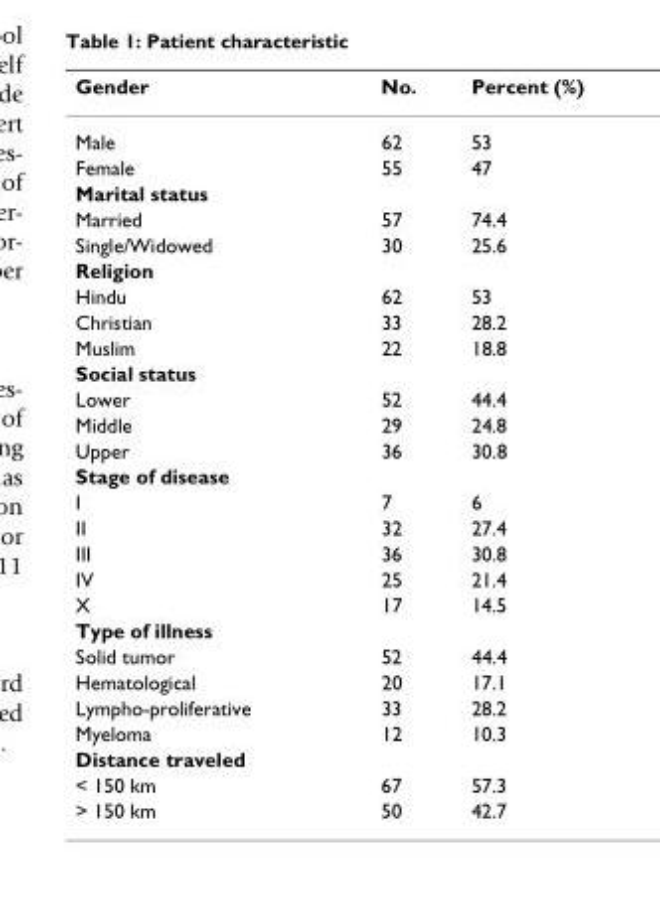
<table><thead><tr><td>Gender</td><td>No.</td><td>Percent (%)</td></tr></thead><tbody><tr><td>Male</td><td>62</td><td>53</td></tr><tr><td>Female</td><td>55</td><td>47</td></tr><tr><td colspan="3">Marital status</td></tr><tr><td>Married</td><td>57</td><td>74.4</td></tr><tr><td>Single/Widowed</td><td>30</td><td>25.6</td></tr><tr><td colspan="3">Religion</td></tr><tr><td>Hindu</td><td>62</td><td>53</td></tr><tr><td>Christian</td><td>33</td><td>28.2</td></tr><tr><td>Muslim</td><td>22</td><td>18.8</td></tr><tr><td colspan="3">Social status</td></tr><tr><td>Lower</td><td>52</td><td>44.4</td></tr><tr><td>Middle</td><td>29</td><td>24.8</td></tr><tr><td>Upper</td><td>36</td><td>30.8</td></tr><tr><td colspan="3">Stage of disease</td></tr><tr><td>I</td><td>7</td><td>6</td></tr><tr><td>II</td><td>32</td><td>27.4</td></tr><tr><td>III</td><td>36</td><td>30.8</td></tr><tr><td>IV</td><td>25</td><td>21.4</td></tr><tr><td>X</td><td>17</td><td>14.5</td></tr><tr><td colspan="3">Type of illness</td></tr><tr><td>Solid tumor</td><td>52</td><td>44.4</td></tr><tr><td>Hematological</td><td>20</td><td>17.1</td></tr><tr><td>Lympho-proliferative</td><td>33</td><td>28.2</td></tr><tr><td>Myeloma</td><td>12</td><td>10.3</td></tr><tr><td colspan="3">Distance traveled</td></tr><tr><td>&lt; 150 km</td><td>67</td><td>57.3</td></tr><tr><td>&gt; 150 km</td><td>50</td><td>42.7</td></tr></tbody></table>